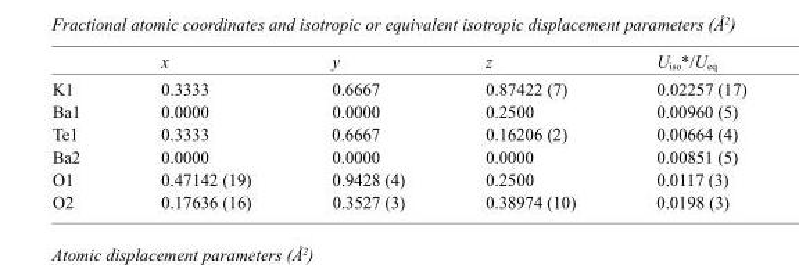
<table><thead><tr><td></td><td>x</td><td>y</td><td>z</td><td>U<sub>iso</sub>*/U<sub>eq</sub></td></tr></thead><tbody><tr><td>K1</td><td>0.3333</td><td>0.6667</td><td>0.87422 (7)</td><td>0.02257 (17)</td></tr><tr><td>Ba1</td><td>0.0000</td><td>0.0000</td><td>0.2500</td><td>0.00960 (5)</td></tr><tr><td>Te1</td><td>0.3333</td><td>0.6667</td><td>0.16206 (2)</td><td>0.00664 (4)</td></tr><tr><td>Ba2</td><td>0.0000</td><td>0.0000</td><td>0.0000</td><td>0.00851 (5)</td></tr><tr><td>O1</td><td>0.47142 (19)</td><td>0.9428 (4)</td><td>0.2500</td><td>0.0117 (3)</td></tr><tr><td>O2</td><td>0.17636 (16)</td><td>0.3527 (3)</td><td>0.38974 (10)</td><td>0.0198 (3)</td></tr></tbody></table>